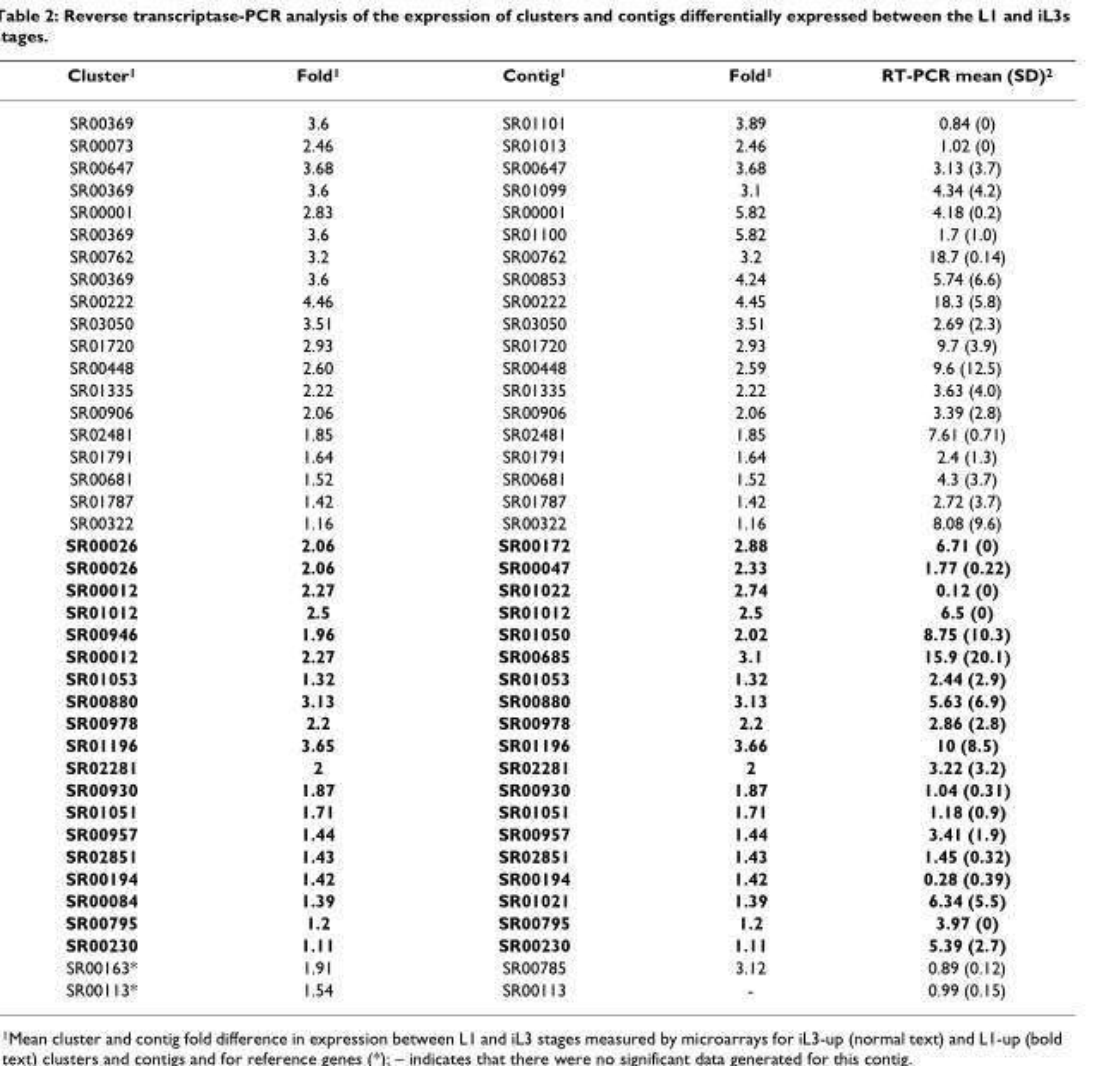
<table><thead><tr><td>Cluster1</td><td>Fold1</td><td>Contig1</td><td>Fold1</td><td>RT-PCR mean (SD)2</td></tr></thead><tbody><tr><td>SR00369</td><td>3.6</td><td>SR01101</td><td>3.89</td><td>0.84 (0)</td></tr><tr><td>SR00073</td><td>2.46</td><td>SR01013</td><td>2.46</td><td>1.02 (0)</td></tr><tr><td>SR00647</td><td>3.68</td><td>SR00647</td><td>3.68</td><td>3.13 (3.7)</td></tr><tr><td>SR00369</td><td>3.6</td><td>SR01099</td><td>3.1</td><td>4.34 (4.2)</td></tr><tr><td>SR00001</td><td>2.83</td><td>SR00001</td><td>5.82</td><td>4.18 (0.2)</td></tr><tr><td>SR00369</td><td>3.6</td><td>SR01100</td><td>5.82</td><td>1.7 (1.0)</td></tr><tr><td>SR00762</td><td>3.2</td><td>SR00762</td><td>3.2</td><td>18.7 (0.14)</td></tr><tr><td>SR00369</td><td>3.6</td><td>SR00853</td><td>4.24</td><td>5.74 (6.6)</td></tr><tr><td>SR00222</td><td>4.46</td><td>SR00222</td><td>4.45</td><td>18.3 (5.8)</td></tr><tr><td>SR03050</td><td>3.51</td><td>SR03050</td><td>3.51</td><td>2.69 (2.3)</td></tr><tr><td>SR01720</td><td>2.93</td><td>SR01720</td><td>2.93</td><td>9.7 (3.9)</td></tr><tr><td>SR00448</td><td>2.60</td><td>SR00448</td><td>2.59</td><td>9.6 (12.5)</td></tr><tr><td>SR01335</td><td>2.22</td><td>SR01335</td><td>2.22</td><td>3.63 (4.0)</td></tr><tr><td>SR00906</td><td>2.06</td><td>SR00906</td><td>2.06</td><td>3.39 (2.8)</td></tr><tr><td>SR02481</td><td>1.85</td><td>SR02481</td><td>1.85</td><td>7.61 (0.71)</td></tr><tr><td>SR01791</td><td>1.64</td><td>SR01791</td><td>1.64</td><td>2.4 (1.3)</td></tr><tr><td>SR00681</td><td>1.52</td><td>SR00681</td><td>1.52</td><td>4.3 (3.7)</td></tr><tr><td>SR01787</td><td>1.42</td><td>SR01787</td><td>1.42</td><td>2.72 (3.7)</td></tr><tr><td>SR00322</td><td>1.16</td><td>SR00322</td><td>1.16</td><td>8.08 (9.6)</td></tr><tr><td>SR00026</td><td>2.06</td><td>SR00172</td><td>2.88</td><td>6.71 (0)</td></tr><tr><td>SR00026</td><td>2.06</td><td>SR00047</td><td>2.33</td><td>1.77 (0.22)</td></tr><tr><td>SR00012</td><td>2.27</td><td>SR01022</td><td>2.74</td><td>0.12 (0)</td></tr><tr><td>SR01012</td><td>2.5</td><td>SR01012</td><td>2.5</td><td>6.5 (0)</td></tr><tr><td>SR00946</td><td>1.96</td><td>SR01050</td><td>2.02</td><td>8.75 (10.3)</td></tr><tr><td>SR00012</td><td>2.27</td><td>SR00685</td><td>3.1</td><td>15.9 (20.1)</td></tr><tr><td>SR01053</td><td>1.32</td><td>SR01053</td><td>1.32</td><td>2.44 (2.9)</td></tr><tr><td>SR00880</td><td>3.13</td><td>SR00880</td><td>3.13</td><td>5.63 (6.9)</td></tr><tr><td>SR00978</td><td>2.2</td><td>SR00978</td><td>2.2</td><td>2.86 (2.8)</td></tr><tr><td>SR01196</td><td>3.65</td><td>SR01196</td><td>3.66</td><td>10 (8.5)</td></tr><tr><td>SR02281</td><td>2</td><td>SR02281</td><td>2</td><td>3.22 (3.2)</td></tr><tr><td>SR00930</td><td>1.87</td><td>SR00930</td><td>1.87</td><td>1.04 (0.31)</td></tr><tr><td>SR01051</td><td>1.71</td><td>SR01051</td><td>1.71</td><td>1.18 (0.9)</td></tr><tr><td>SR00957</td><td>1.44</td><td>SR00957</td><td>1.44</td><td>3.41 (1.9)</td></tr><tr><td>SR02851</td><td>1.43</td><td>SR02851</td><td>1.43</td><td>1.45 (0.32)</td></tr><tr><td>SR00194</td><td>1.42</td><td>SR00194</td><td>1.42</td><td>0.28 (0.39)</td></tr><tr><td>SR00084</td><td>1.39</td><td>SR01021</td><td>1.39</td><td>6.34 (5.5)</td></tr><tr><td>SR00795</td><td>1.2</td><td>SR00795</td><td>1.2</td><td>3.97 (0)</td></tr><tr><td>SR00230</td><td>1.11</td><td>SR00230</td><td>1.11</td><td>5.39 (2.7)</td></tr><tr><td>SR00163*</td><td>1.91</td><td>SR00785</td><td>3.12</td><td>0.89 (0.12)</td></tr><tr><td>SR00113*</td><td>1.54</td><td>SR00113</td><td>-</td><td>0.99 (0.15)</td></tr></tbody></table>